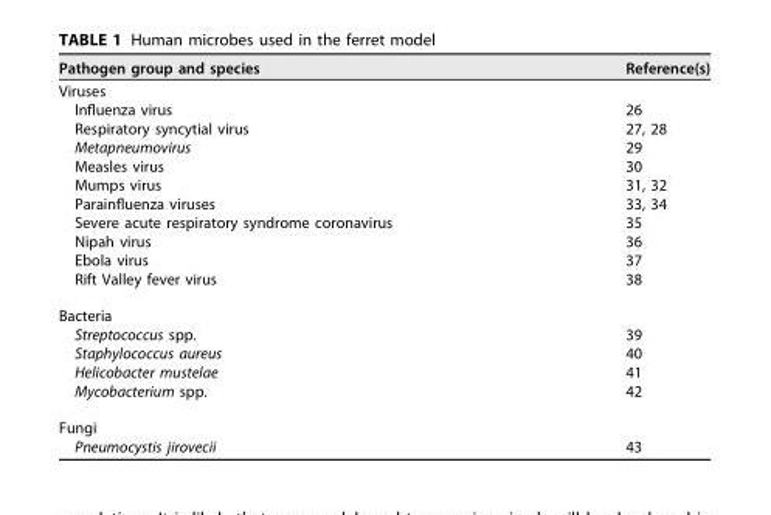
<table><thead><tr><td>Pathogen group and species</td><td>Reference(s)</td></tr></thead><tbody><tr><td colspan="2">Viruses</td></tr><tr><td>Influenza virus</td><td>26</td></tr><tr><td>Respiratory syncytial virus</td><td>27, 28</td></tr><tr><td>Metapneumovirus</td><td>29</td></tr><tr><td>Measles virus</td><td>30</td></tr><tr><td>Mumps virus</td><td>31, 32</td></tr><tr><td>Parainfluenza viruses</td><td>33, 34</td></tr><tr><td>Severe acute respiratory syndrome coronavirus</td><td>35</td></tr><tr><td>Nipah virus</td><td>36</td></tr><tr><td>Ebola virus</td><td>37</td></tr><tr><td>Rift Valley fever virus</td><td>38</td></tr><tr><td colspan="2">Bacteria</td></tr><tr><td>Streptococcus spp.</td><td>39</td></tr><tr><td>Staphylococcus aureus</td><td>40</td></tr><tr><td>Helicobacter mustelae</td><td>41</td></tr><tr><td>Mycobacterium spp.</td><td>42</td></tr><tr><td colspan="2">Fungi</td></tr><tr><td>Pneumocystis jirovecii</td><td>43</td></tr></tbody></table>